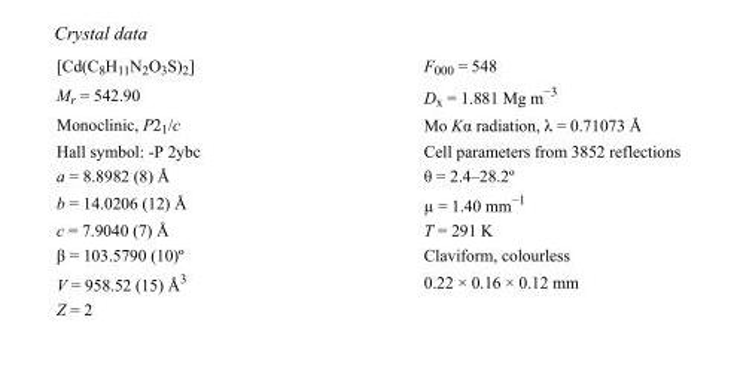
<table><tbody><tr><td>[Cd(C<sub>8</sub>H<sub>11</sub>N<sub>2</sub>O<sub>3</sub>S)<sub>2</sub>]</td><td>F000 = 548</td></tr><tr><td>M<sub>r</sub> = 542.90</td><td>D<sub>x</sub> = 1.881 Mg m<sup>−3</sup></td></tr><tr><td>Monoclinic, P2<sub>1</sub>/c</td><td>Mo Kα radiation, λ = 0.71073 Å</td></tr><tr><td>Hall symbol: -P 2ybc</td><td>Cell parameters from 3852 reflections</td></tr><tr><td>a = 8.8982 (8) Å</td><td>θ = 2.4–28.2º</td></tr><tr><td>b = 14.0206 (12) Å</td><td>µ = 1.40 mm<sup>−1</sup></td></tr><tr><td>c = 7.9040 (7) Å</td><td>T = 291 K</td></tr><tr><td>β = 103.5790 (10)º</td><td>Claviform, colourless</td></tr><tr><td>V = 958.52 (15) Å<sup>3</sup></td><td>0.22 × 0.16 × 0.12 mm</td></tr><tr><td>Z = 2</td><td></td></tr></tbody></table>